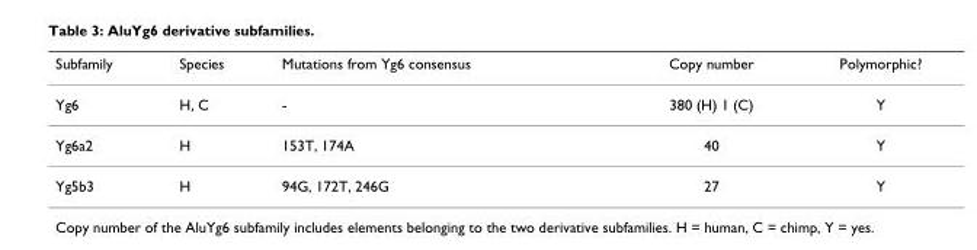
<table><thead><tr><td>Subfamily</td><td>Species</td><td>Mutations from Yg6 consensus</td><td>Copy number</td><td>Polymorphic?</td></tr></thead><tbody><tr><td>Yg6</td><td>H, C</td><td>-</td><td>380 (H) 1 (C)</td><td>Y</td></tr><tr><td>Yg6a2</td><td>H</td><td>153T, 174A</td><td>40</td><td>Y</td></tr><tr><td>Yg5b3</td><td>H</td><td>94G, 172T, 246G</td><td>27</td><td>Y</td></tr></tbody></table>